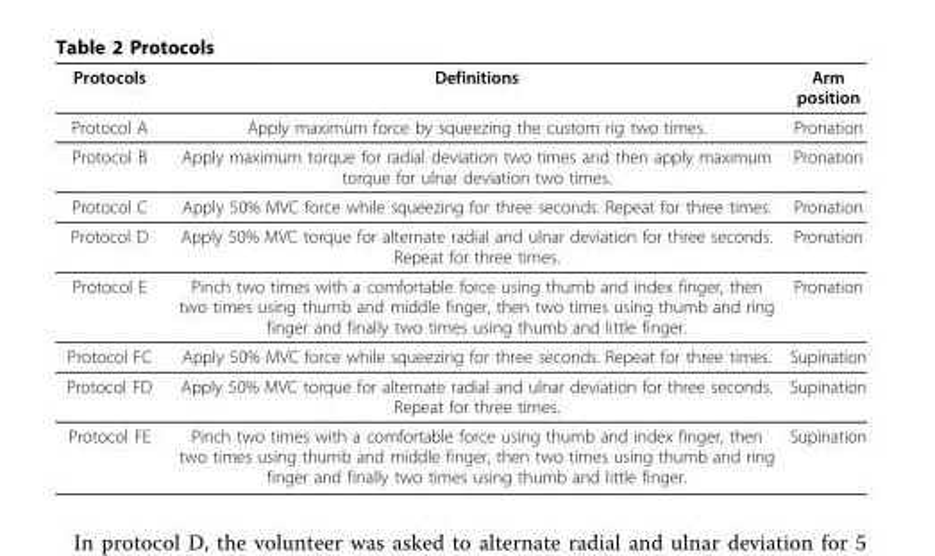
<table><thead><tr><td>Protocols</td><td>Definitions</td><td>Arm position</td></tr></thead><tbody><tr><td>Protocol A</td><td>Apply maximum force by squeezing the custom rig two times.</td><td>Pronation</td></tr><tr><td>Protocol B</td><td>Apply maximum torque for radial deviation two times and then apply maximum torque for ulnar deviation two times.</td><td>Pronation</td></tr><tr><td>Protocol C</td><td>Apply 50% MVC force while squeezing for three seconds. Repeat for three times.</td><td>Pronation</td></tr><tr><td>Protocol D</td><td>Apply 50% MVC torque for alternate radial and ulnar deviation for three seconds. Repeat for three times.</td><td>Pronation</td></tr><tr><td>Protocol E</td><td>Pinch two times with a comfortable force using thumb and index finger, then two times using thumb and middle finger, then two times using thumb and ring finger and finally two times using thumb and little finger.</td><td>Pronation</td></tr><tr><td>Protocol FC</td><td>Apply 50% MVC force while squeezing for three seconds. Repeat for three times.</td><td>Supination</td></tr><tr><td>Protocol FD</td><td>Apply 50% MVC torque for alternate radial and ulnar deviation for three seconds. Repeat for three times.</td><td>Supination</td></tr><tr><td>Protocol FE</td><td>Pinch two times with a comfortable force using thumb and index finger, then two times using thumb and middle finger, then two times using thumb and ring finger and finally two times using thumb and little finger.</td><td>Supination</td></tr></tbody></table>